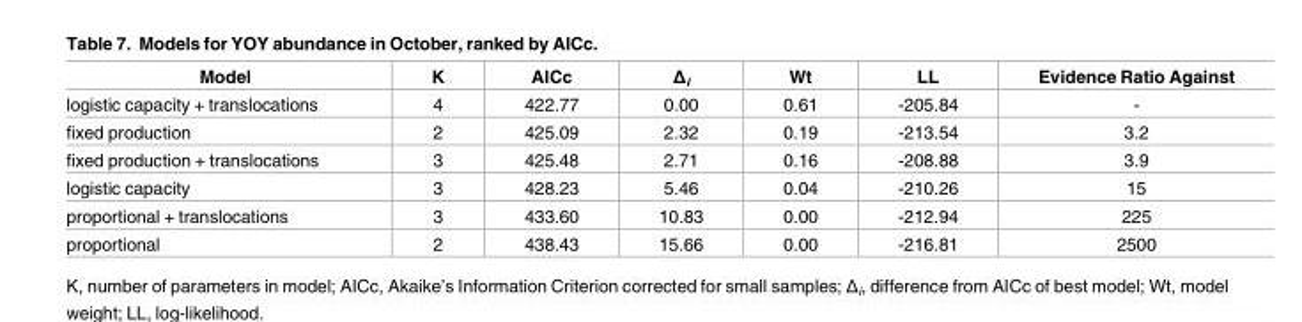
<table><thead><tr><td>Model</td><td>K</td><td>AICc</td><td>Δ<sub>i</sub></td><td>Wt</td><td>LL</td><td>Evidence Ratio Against</td></tr></thead><tbody><tr><td>logistic capacity + translocations</td><td>4</td><td>422.77</td><td>0.00</td><td>0.61</td><td>-205.84</td><td>-</td></tr><tr><td>fixed production</td><td>2</td><td>425.09</td><td>2.32</td><td>0.19</td><td>-213.54</td><td>3.2</td></tr><tr><td>fixed production + translocations</td><td>3</td><td>425.48</td><td>2.71</td><td>0.16</td><td>-208.88</td><td>3.9</td></tr><tr><td>logistic capacity</td><td>3</td><td>428.23</td><td>5.46</td><td>0.04</td><td>-210.26</td><td>15</td></tr><tr><td>proportional + translocations</td><td>3</td><td>433.60</td><td>10.83</td><td>0.00</td><td>-212.94</td><td>225</td></tr><tr><td>proportional</td><td>2</td><td>438.43</td><td>15.66</td><td>0.00</td><td>-216.81</td><td>2500</td></tr></tbody></table>